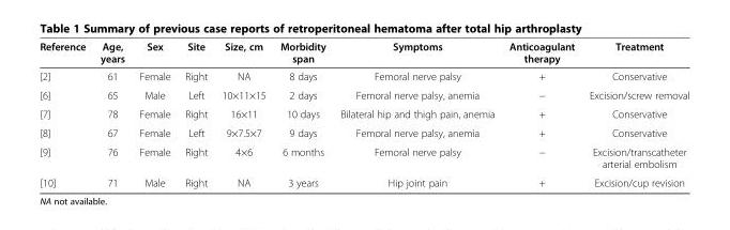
<table><thead><tr><td>Reference</td><td>Age, years</td><td>Sex</td><td>Site</td><td>Size, cm</td><td>Morbidity span</td><td>Symptoms</td><td>Anticoagulant therapy</td><td>Treatment</td></tr></thead><tbody><tr><td>[2]</td><td>61</td><td>Female</td><td>Right</td><td>NA</td><td>8 days</td><td>Femoral nerve palsy</td><td>+</td><td>Conservative</td></tr><tr><td>[6]</td><td>65</td><td>Male</td><td>Left</td><td>10×11×15</td><td>2 days</td><td>Femoral nerve palsy, anemia</td><td>−</td><td>Excision/screw removal</td></tr><tr><td>[7]</td><td>78</td><td>Female</td><td>Right</td><td>16×11</td><td>10 days</td><td>Bilateral hip and thigh pain, anemia</td><td>+</td><td>Conservative</td></tr><tr><td>[8]</td><td>67</td><td>Female</td><td>Left</td><td>9×7.5×7</td><td>9 days</td><td>Femoral nerve palsy, anemia</td><td>+</td><td>Conservative</td></tr><tr><td>[9]</td><td>76</td><td>Female</td><td>Right</td><td>4×6</td><td>6 months</td><td>Femoral nerve palsy</td><td>−</td><td>Excision/transcatheter arterial embolism</td></tr><tr><td>[10]</td><td>71</td><td>Male</td><td>Right</td><td>NA</td><td>3 years</td><td>Hip joint pain</td><td>+</td><td>Excision/cup revision</td></tr></tbody></table>